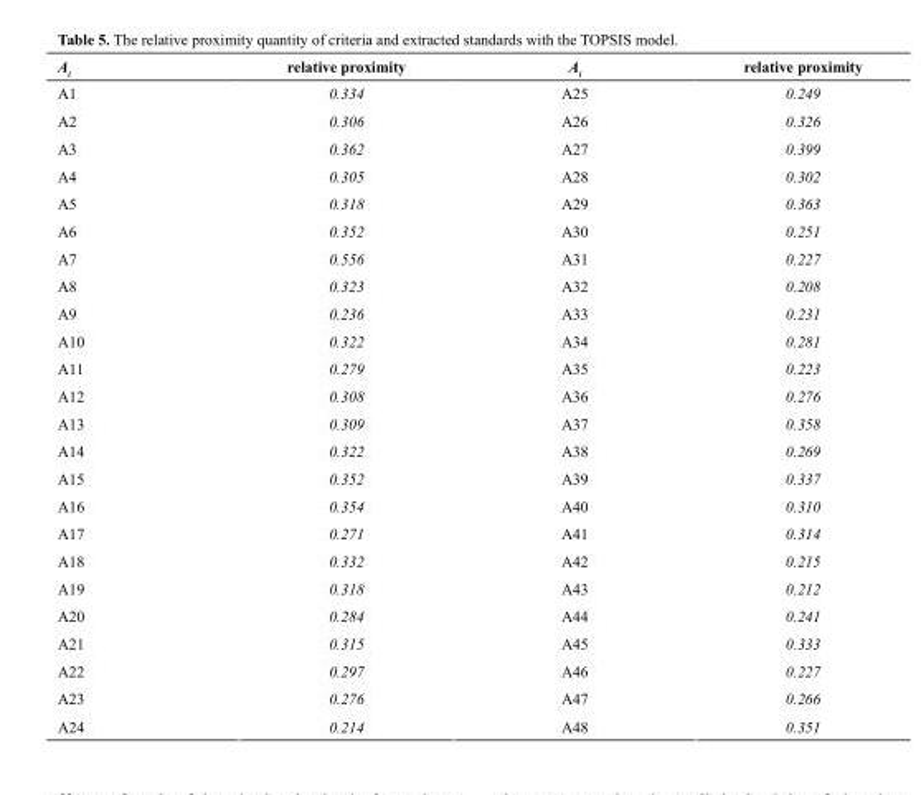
<table><thead><tr><td>A<sub>i</sub></td><td>relative proximity</td><td>A<sub>i</sub></td><td>relative proximity</td></tr></thead><tbody><tr><td>A1</td><td>0.334</td><td>A25</td><td>0.249</td></tr><tr><td>A2</td><td>0.306</td><td>A26</td><td>0.326</td></tr><tr><td>A3</td><td>0.362</td><td>A27</td><td>0.399</td></tr><tr><td>A4</td><td>0.305</td><td>A28</td><td>0.302</td></tr><tr><td>A5</td><td>0.318</td><td>A29</td><td>0.363</td></tr><tr><td>A6</td><td>0.352</td><td>A30</td><td>0.251</td></tr><tr><td>A7</td><td>0.556</td><td>A31</td><td>0.227</td></tr><tr><td>A8</td><td>0.323</td><td>A32</td><td>0.208</td></tr><tr><td>A9</td><td>0.236</td><td>A33</td><td>0.231</td></tr><tr><td>A10</td><td>0.322</td><td>A34</td><td>0.281</td></tr><tr><td>A11</td><td>0.279</td><td>A35</td><td>0.223</td></tr><tr><td>A12</td><td>0.308</td><td>A36</td><td>0.276</td></tr><tr><td>A13</td><td>0.309</td><td>A37</td><td>0.358</td></tr><tr><td>A14</td><td>0.322</td><td>A38</td><td>0.269</td></tr><tr><td>A15</td><td>0.352</td><td>A39</td><td>0.337</td></tr><tr><td>A16</td><td>0.354</td><td>A40</td><td>0.310</td></tr><tr><td>A17</td><td>0.271</td><td>A41</td><td>0.314</td></tr><tr><td>A18</td><td>0.332</td><td>A42</td><td>0.215</td></tr><tr><td>A19</td><td>0.318</td><td>A43</td><td>0.212</td></tr><tr><td>A20</td><td>0.284</td><td>A44</td><td>0.241</td></tr><tr><td>A21</td><td>0.315</td><td>A45</td><td>0.333</td></tr><tr><td>A22</td><td>0.297</td><td>A46</td><td>0.227</td></tr><tr><td>A23</td><td>0.276</td><td>A47</td><td>0.266</td></tr><tr><td>A24</td><td>0.214</td><td>A48</td><td>0.351</td></tr></tbody></table>